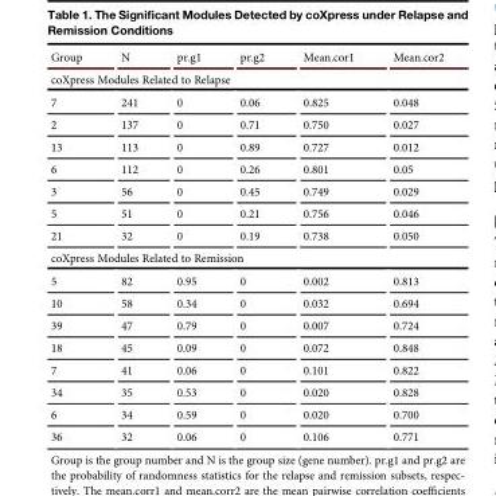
<table><thead><tr><td>Group</td><td>N</td><td>pr.g1</td><td>pr.g2</td><td>Mean.cor1</td><td>Mean.cor2</td></tr></thead><tbody><tr><td colspan="6">coXpress Modules Related to Relapse</td></tr><tr><td>7</td><td>241</td><td>0</td><td>0.06</td><td>0.825</td><td>0.048</td></tr><tr><td>2</td><td>137</td><td>0</td><td>0.71</td><td>0.750</td><td>0.027</td></tr><tr><td>13</td><td>113</td><td>0</td><td>0.89</td><td>0.727</td><td>0.012</td></tr><tr><td>6</td><td>112</td><td>0</td><td>0.26</td><td>0.801</td><td>0.05</td></tr><tr><td>3</td><td>56</td><td>0</td><td>0.45</td><td>0.749</td><td>0.029</td></tr><tr><td>5</td><td>51</td><td>0</td><td>0.21</td><td>0.756</td><td>0.046</td></tr><tr><td>21</td><td>32</td><td>0</td><td>0.19</td><td>0.738</td><td>0.050</td></tr><tr><td colspan="6">coXpress Modules Related to Remission</td></tr><tr><td>5</td><td>82</td><td>0.95</td><td>0</td><td>0.002</td><td>0.813</td></tr><tr><td>10</td><td>58</td><td>0.34</td><td>0</td><td>0.032</td><td>0.694</td></tr><tr><td>39</td><td>47</td><td>0.79</td><td>0</td><td>0.007</td><td>0.724</td></tr><tr><td>18</td><td>45</td><td>0.09</td><td>0</td><td>0.072</td><td>0.848</td></tr><tr><td>7</td><td>41</td><td>0.06</td><td>0</td><td>0.101</td><td>0.822</td></tr><tr><td>34</td><td>35</td><td>0.53</td><td>0</td><td>0.020</td><td>0.828</td></tr><tr><td>6</td><td>34</td><td>0.59</td><td>0</td><td>0.020</td><td>0.700</td></tr><tr><td>36</td><td>32</td><td>0.06</td><td>0</td><td>0.106</td><td>0.771</td></tr></tbody></table>